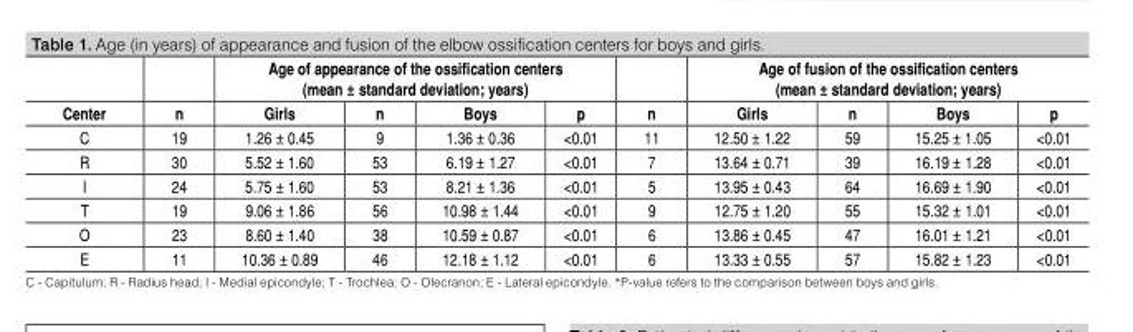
<table><thead><tr><td rowspan="2">Center</td><td rowspan="2">n</td><td colspan="4">Age of appearance of the ossification centers (mean ± standard deviation; years)</td><td rowspan="2">n</td><td colspan="4">Age of fusion of the ossification centers (mean ± standard deviation; years)</td></tr><tr><td>Girls</td><td>n</td><td>Boys</td><td>p</td><td>Girls</td><td>n</td><td>Boys</td><td>p</td></tr></thead><tbody><tr><td>C</td><td>19</td><td>1.26 ± 0.45</td><td>9</td><td>1.36 ± 0.36</td><td>&lt;0.01</td><td>11</td><td>12.50 ± 1.22</td><td>59</td><td>15.25 ± 1.05</td><td>&lt;0.01</td></tr><tr><td>R</td><td>30</td><td>5.52 ± 1.60</td><td>53</td><td>6.19 ± 1.27</td><td>&lt;0.01</td><td>7</td><td>13.64 ± 0.71</td><td>39</td><td>16.19 ± 1.28</td><td>&lt;0.01</td></tr><tr><td>I</td><td>24</td><td>5.75 ± 1.60</td><td>53</td><td>8.21 ± 1.36</td><td>&lt;0.01</td><td>5</td><td>13.95 ± 0.43</td><td>64</td><td>16.69 ± 1.90</td><td>&lt;0.01</td></tr><tr><td>T</td><td>19</td><td>9.06 ± 1.86</td><td>56</td><td>10.98 ± 1.44</td><td>&lt;0.01</td><td>9</td><td>12.75 ± 1.20</td><td>55</td><td>15.32 ± 1.01</td><td>&lt;0.01</td></tr><tr><td>O</td><td>23</td><td>8.60 ± 1.40</td><td>38</td><td>10.59 ± 0.87</td><td>&lt;0.01</td><td>6</td><td>13.86 ± 0.45</td><td>47</td><td>16.01 ± 1.21</td><td>&lt;0.01</td></tr><tr><td>E</td><td>11</td><td>10.36 ± 0.89</td><td>46</td><td>12.18 ± 1.12</td><td>&lt;0.01</td><td>6</td><td>13.33 ± 0.55</td><td>57</td><td>15.82 ± 1.23</td><td>&lt;0.01</td></tr></tbody></table>